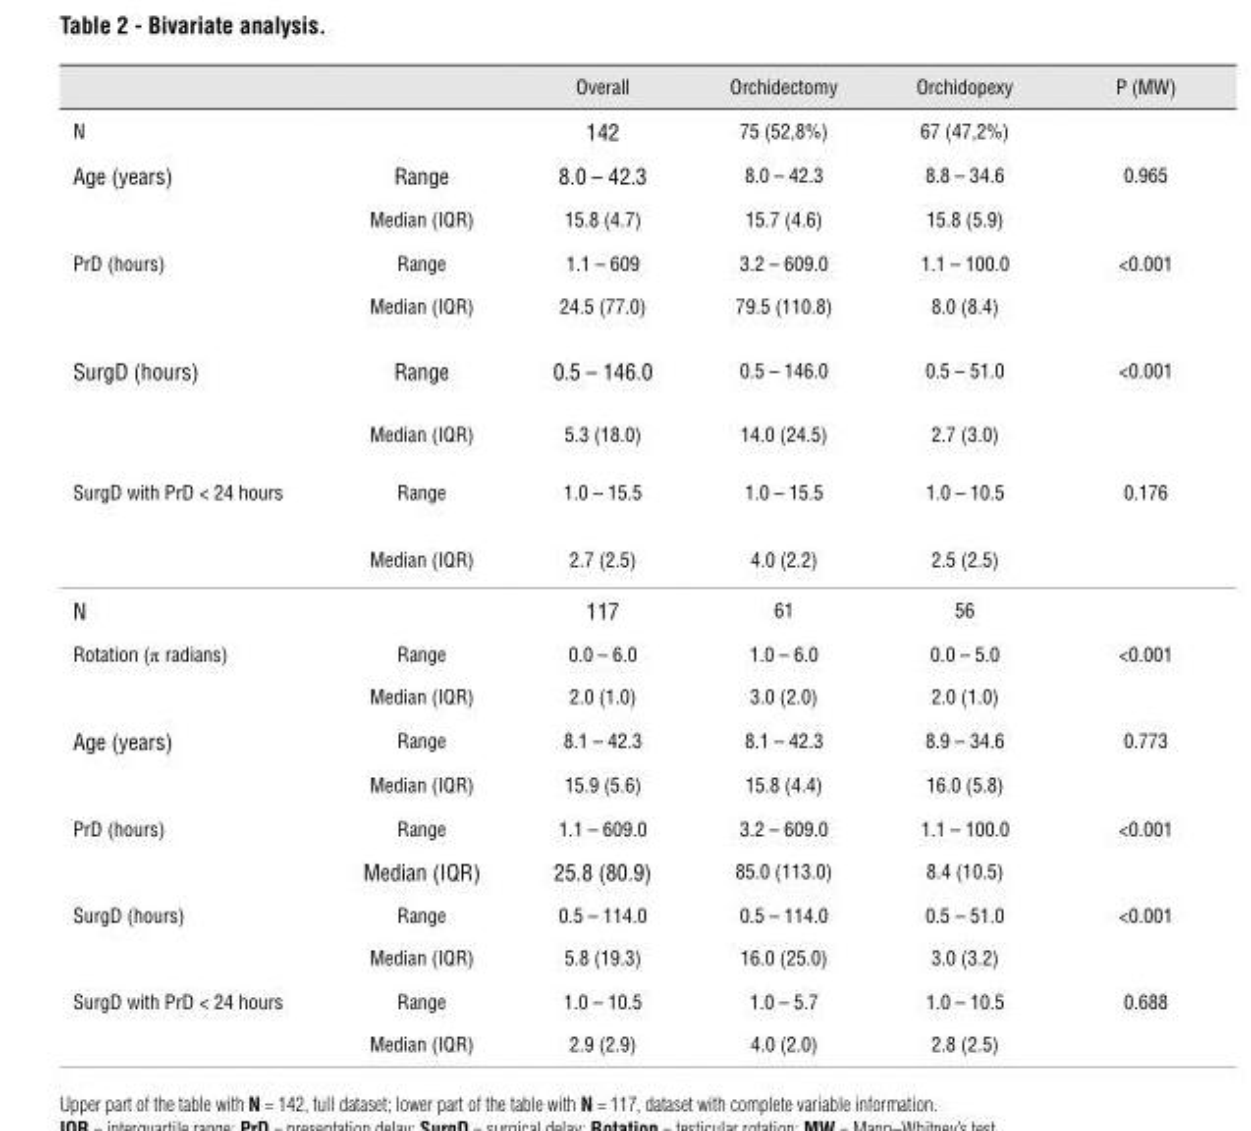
<table><thead><tr><td></td><td></td><td>Overall</td><td>Orchidectomy</td><td>Orchidopexy</td><td>P (MW)</td></tr></thead><tbody><tr><td>N</td><td></td><td>142</td><td>75 (52,8%)</td><td>67 (47,2%)</td><td></td></tr><tr><td rowspan="2">Age (years)</td><td>Range</td><td>8.0 – 42.3</td><td>8.0 – 42.3</td><td>8.8 – 34.6</td><td>0.965</td></tr><tr><td>Median (IQR)</td><td>15.8 (4.7)</td><td>15.7 (4.6)</td><td>15.8 (5.9)</td><td></td></tr><tr><td rowspan="2">PrD (hours)</td><td>Range</td><td>1.1 – 609</td><td>3.2 – 609.0</td><td>1.1 – 100.0</td><td>&lt;0.001</td></tr><tr><td>Median (IQR)</td><td>24.5 (77.0)</td><td>79.5 (110.8)</td><td>8.0 (8.4)</td><td></td></tr><tr><td rowspan="2">SurgD (hours)</td><td>Range</td><td>0.5 – 146.0</td><td>0.5 – 146.0</td><td>0.5 – 51.0</td><td>&lt;0.001</td></tr><tr><td>Median (IQR)</td><td>5.3 (18.0)</td><td>14.0 (24.5)</td><td>2.7 (3.0)</td><td></td></tr><tr><td rowspan="2">SurgD with PrD &lt; 24 hours</td><td>Range</td><td>1.0 – 15.5</td><td>1.0 – 15.5</td><td>1.0 – 10.5</td><td>0.176</td></tr><tr><td>Median (IQR)</td><td>2.7 (2.5)</td><td>4.0 (2.2)</td><td>2.5 (2.5)</td><td></td></tr><tr><td>N</td><td></td><td>117</td><td>61</td><td>56</td><td></td></tr><tr><td rowspan="2">Rotation (π radians)</td><td>Range</td><td>0.0 – 6.0</td><td>1.0 – 6.0</td><td>0.0 – 5.0</td><td>&lt;0.001</td></tr><tr><td>Median (IQR)</td><td>2.0 (1.0)</td><td>3.0 (2.0)</td><td>2.0 (1.0)</td><td></td></tr><tr><td rowspan="2">Age (years)</td><td>Range</td><td>8.1 – 42.3</td><td>8.1 – 42.3</td><td>8.9 – 34.6</td><td>0.773</td></tr><tr><td>Median (IQR)</td><td>15.9 (5.6)</td><td>15.8 (4.4)</td><td>16.0 (5.8)</td><td></td></tr><tr><td rowspan="2">PrD (hours)</td><td>Range</td><td>1.1 – 609.0</td><td>3.2 – 609.0</td><td>1.1 – 100.0</td><td>&lt;0.001</td></tr><tr><td>Median (IQR)</td><td>25.8 (80.9)</td><td>85.0 (113.0)</td><td>8.4 (10.5)</td><td></td></tr><tr><td rowspan="2">SurgD (hours)</td><td>Range</td><td>0.5 – 114.0</td><td>0.5 – 114.0</td><td>0.5 – 51.0</td><td>&lt;0.001</td></tr><tr><td>Median (IQR)</td><td>5.8 (19.3)</td><td>16.0 (25.0)</td><td>3.0 (3.2)</td><td></td></tr><tr><td rowspan="2">SurgD with PrD &lt; 24 hours</td><td>Range</td><td>1.0 – 10.5</td><td>1.0 – 5.7</td><td>1.0 – 10.5</td><td>0.688</td></tr><tr><td>Median (IQR)</td><td>2.9 (2.9)</td><td>4.0 (2.0)</td><td>2.8 (2.5)</td><td></td></tr></tbody></table>